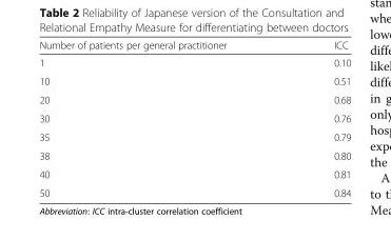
<table><thead><tr><td>Number of patients per general practitioner</td><td>ICC</td></tr></thead><tbody><tr><td>1</td><td>0.10</td></tr><tr><td>10</td><td>0.51</td></tr><tr><td>20</td><td>0.68</td></tr><tr><td>30</td><td>0.76</td></tr><tr><td>35</td><td>0.79</td></tr><tr><td>38</td><td>0.80</td></tr><tr><td>40</td><td>0.81</td></tr><tr><td>50</td><td>0.84</td></tr></tbody></table>